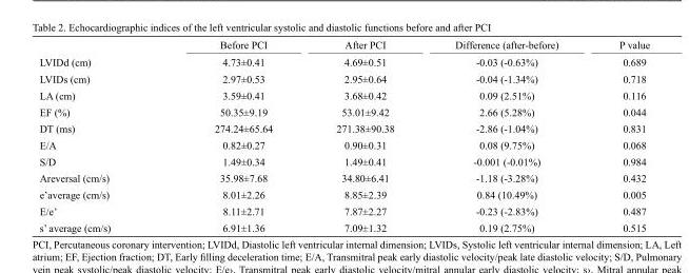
<table><thead><tr><td></td><td>Before PCI</td><td>After PCI</td><td>Difference (after-before)</td><td>P value</td></tr></thead><tbody><tr><td>LVIDd (cm)</td><td>4.73±0.41</td><td>4.69±0.51</td><td>-0.03 (-0.63%)</td><td>0.689</td></tr><tr><td>LVIDs (cm)</td><td>2.97±0.53</td><td>2.95±0.64</td><td>-0.04 (-1.34%)</td><td>0.718</td></tr><tr><td>LA (cm)</td><td>3.59±0.41</td><td>3.68±0.42</td><td>0.09 (2.51%)</td><td>0.116</td></tr><tr><td>EF (%)</td><td>50.35±9.19</td><td>53.01±9.42</td><td>2.66 (5.28%)</td><td>0.044</td></tr><tr><td>DT (ms)</td><td>274.24±65.64</td><td>271.38±90.38</td><td>-2.86 (-1.04%)</td><td>0.831</td></tr><tr><td>E/A</td><td>0.82±0.27</td><td>0.90±0.31</td><td>0.08 (9.75%)</td><td>0.068</td></tr><tr><td>S/D</td><td>1.49±0.34</td><td>1.49±0.41</td><td>-0.001 (-0.01%)</td><td>0.984</td></tr><tr><td>Areversal (cm/s)</td><td>35.98±7.68</td><td>34.80±6.41</td><td>-1.18 (-3.28%)</td><td>0.432</td></tr><tr><td>e’average (cm/s)</td><td>8.01±2.26</td><td>8.85±2.39</td><td>0.84 (10.49%)</td><td>0.005</td></tr><tr><td>E/e’</td><td>8.11±2.71</td><td>7.87±2.27</td><td>-0.23 (-2.83%)</td><td>0.487</td></tr><tr><td>s’ average (cm/s)</td><td>6.91±1.36</td><td>7.09±1.32</td><td>0.19 (2.75%)</td><td>0.515</td></tr></tbody></table>